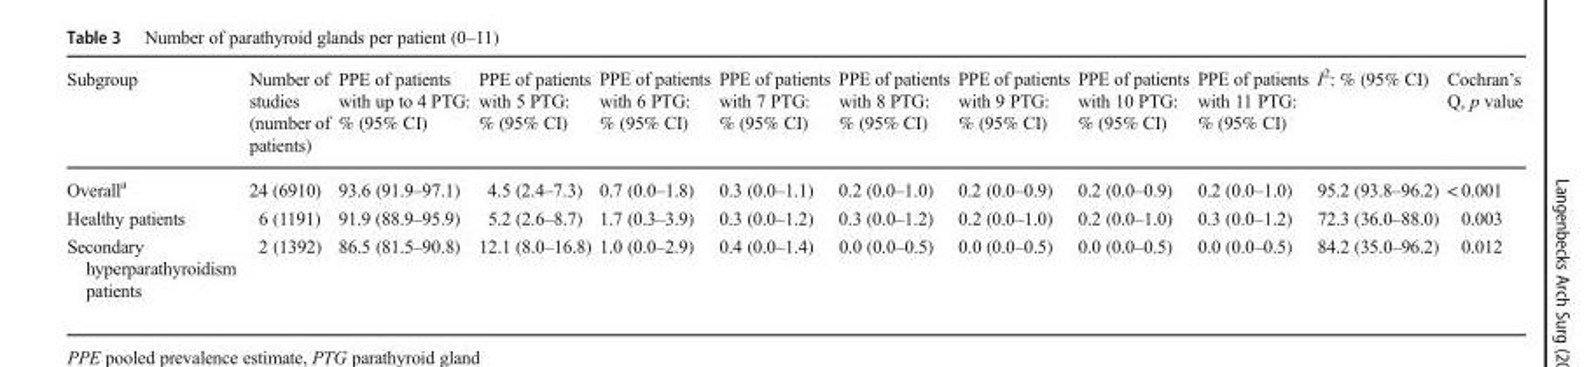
<table><thead><tr><td>Subgroup</td><td>Number of studies (number of patients)</td><td>PPE of patients with up to 4 PTG: % (95% CI)</td><td>PPE of patients with 5 PTG: % (95% CI)</td><td>PPE of patients with 6 PTG: % (95% CI)</td><td>PPE of patients with 7 PTG: % (95% CI)</td><td>PPE of patients with 8 PTG: % (95% CI)</td><td>PPE of patients with 9 PTG: % (95% CI)</td><td>PPE of patients with 10 PTG: % (95% CI)</td><td>PPE of patients with 11 PTG: % (95% CI)</td><td>I<sup>2</sup>: % (95% CI)</td><td>Cochran’s Q, p value</td></tr></thead><tbody><tr><td>Overall<sup>a</sup></td><td>24 (6910)</td><td>93.6 (91.9–97.1)</td><td>4.5 (2.4–7.3)</td><td>0.7 (0.0–1.8)</td><td>0.3 (0.0–1.1)</td><td>0.2 (0.0–1.0)</td><td>0.2 (0.0–0.9)</td><td>0.2 (0.0–0.9)</td><td>0.2 (0.0–1.0)</td><td>95.2 (93.8–96.2)</td><td>&lt; 0.001</td></tr><tr><td>Healthy patients</td><td>6 (1191)</td><td>91.9 (88.9–95.9)</td><td>5.2 (2.6–8.7)</td><td>1.7 (0.3–3.9)</td><td>0.3 (0.0–1.2)</td><td>0.3 (0.0–1.2)</td><td>0.2 (0.0–1.0)</td><td>0.2 (0.0–1.0)</td><td>0.3 (0.0–1.2)</td><td>72.3 (36.0–88.0)</td><td>0.003</td></tr><tr><td>Secondary hyperparathyroidism patients</td><td>2 (1392)</td><td>86.5 (81.5–90.8)</td><td>12.1 (8.0–16.8)</td><td>1.0 (0.0–2.9)</td><td>0.4 (0.0–1.4)</td><td>0.0 (0.0–0.5)</td><td>0.0 (0.0–0.5)</td><td>0.0 (0.0–0.5)</td><td>0.0 (0.0–0.5)</td><td>84.2 (35.0–96.2)</td><td>0.012</td></tr></tbody></table>